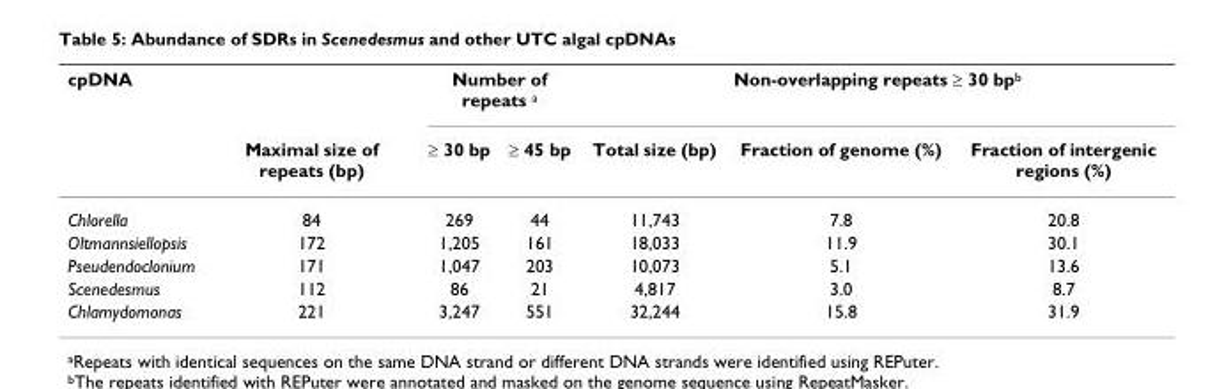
<table><thead><tr><td rowspan="2">cpDNA</td><td rowspan="2">Maximal size of repeats (bp)</td><td colspan="2">Number of repeats <sup>a</sup></td><td colspan="3">Non-overlapping repeats ≥ 30 bp<sup>b</sup></td></tr><tr><td>≥ 30 bp</td><td>≥ 45 bp</td><td>Total size (bp)</td><td>Fraction of genome (%)</td><td>Fraction of intergenic regions (%)</td></tr></thead><tbody><tr><td>Chlorella</td><td>84</td><td>269</td><td>44</td><td>11,743</td><td>7.8</td><td>20.8</td></tr><tr><td>Oltmannsiellopsis</td><td>172</td><td>1,205</td><td>161</td><td>18,033</td><td>11.9</td><td>30.1</td></tr><tr><td>Pseudendoclonium</td><td>171</td><td>1,047</td><td>203</td><td>10,073</td><td>5.1</td><td>13.6</td></tr><tr><td>Scenedesmus</td><td>112</td><td>86</td><td>21</td><td>4,817</td><td>3.0</td><td>8.7</td></tr><tr><td>Chlamydomonas</td><td>221</td><td>3,247</td><td>551</td><td>32,244</td><td>15.8</td><td>31.9</td></tr></tbody></table>